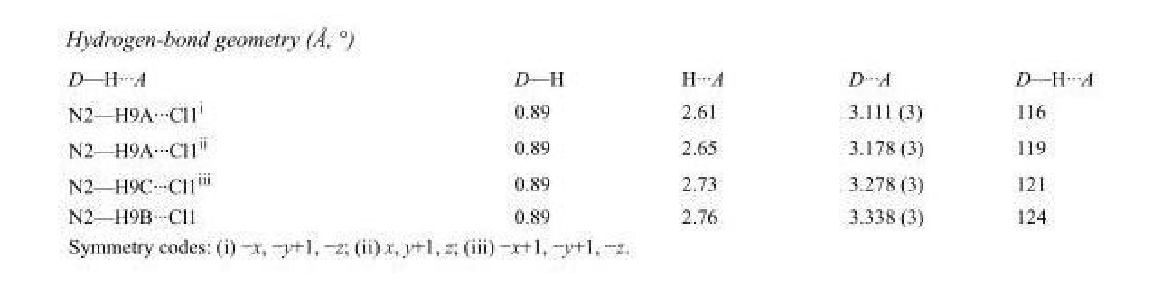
<table><tbody><tr><td>D—H···A</td><td>D—H</td><td>H···A</td><td>D···A</td><td>D—H···A</td></tr><tr><td>N2—H9A···Cl1<sup>i</sup></td><td>0.89</td><td>2.61</td><td>3.111 (3)</td><td>116</td></tr><tr><td>N2—H9A···Cl1<sup>ii</sup></td><td>0.89</td><td>2.65</td><td>3.178 (3)</td><td>119</td></tr><tr><td>N2—H9C···Cl1<sup>iii</sup></td><td>0.89</td><td>2.73</td><td>3.278 (3)</td><td>121</td></tr><tr><td>N2—H9B···Cl1</td><td>0.89</td><td>2.76</td><td>3.338 (3)</td><td>124</td></tr></tbody></table>